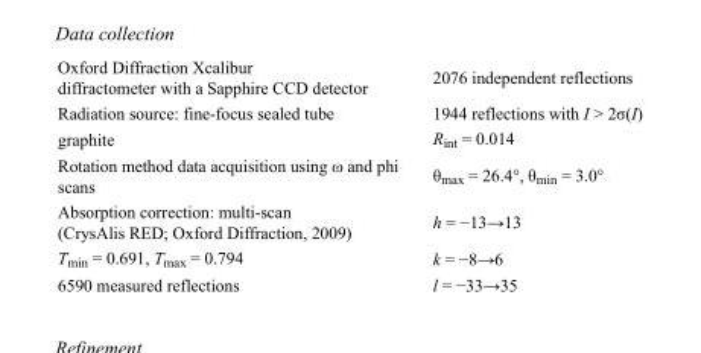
<table><tbody><tr><td>Oxford Diffraction Xcalibur diffractometer with a Sapphire CCD detector</td><td>2076 independent reflections</td></tr><tr><td>Radiation source: fine-focus sealed tube</td><td>1944 reflections with I &gt; 2σ(I)</td></tr><tr><td>graphite</td><td>R<sub>int</sub> = 0.014</td></tr><tr><td>Rotation method data acquisition using ω and phi scans</td><td>θ<sub>max</sub> = 26.4°, θ<sub>min</sub> = 3.0°</td></tr><tr><td>Absorption correction: multi-scan (CrysAlis RED; Oxford Diffraction, 2009)</td><td>h = −13→13</td></tr><tr><td>T<sub>min</sub> = 0.691, T<sub>max</sub> = 0.794</td><td>k = −8→6</td></tr><tr><td>6590 measured reflections</td><td>l = −33→35</td></tr></tbody></table>